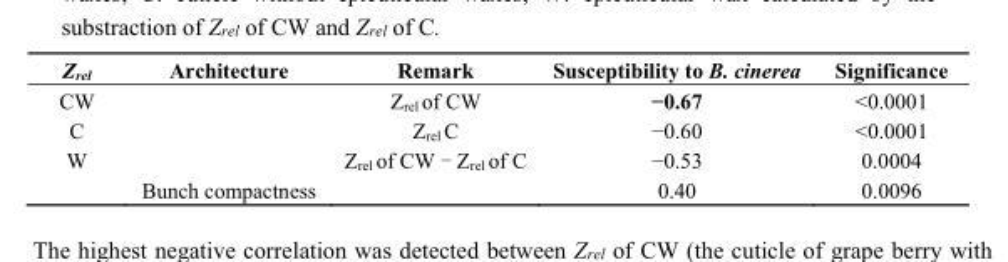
<table><thead><tr><td>Z<sub>rel</sub></td><td>Architecture</td><td>Remark</td><td>Susceptibility to B. cinerea</td><td>Significance</td></tr></thead><tbody><tr><td>CW</td><td></td><td>Z<sub>rel</sub> of CW</td><td>−0.67</td><td>&lt;0.0001</td></tr><tr><td>C</td><td></td><td>Z<sub>rel</sub> C</td><td>−0.60</td><td>&lt;0.0001</td></tr><tr><td rowspan="2">W</td><td></td><td>Z<sub>rel</sub> of CW - Z<sub>rel</sub> of C</td><td>−0.53</td><td>0.0004</td></tr><tr><td>Bunch compactness</td><td></td><td>0.40</td><td>0.0096</td></tr></tbody></table>